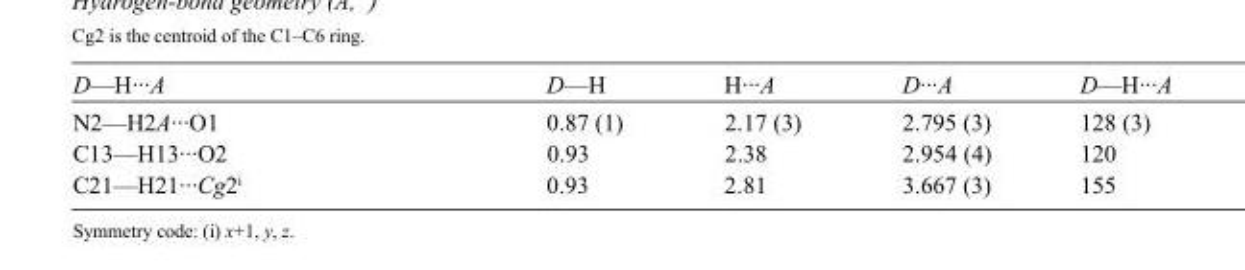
<table><tbody><tr><td>D—H···A</td><td>D—H</td><td>H···A</td><td>D···A</td><td>D—H···A</td></tr><tr><td>N2—H2A···O1</td><td>0.87 (1)</td><td>2.17 (3)</td><td>2.795 (3)</td><td>128 (3)</td></tr><tr><td>C13—H13···O2</td><td>0.93</td><td>2.38</td><td>2.954 (4)</td><td>120</td></tr><tr><td>C21—H21···Cg2<sup>i</sup></td><td>0.93</td><td>2.81</td><td>3.667 (3)</td><td>155</td></tr></tbody></table>